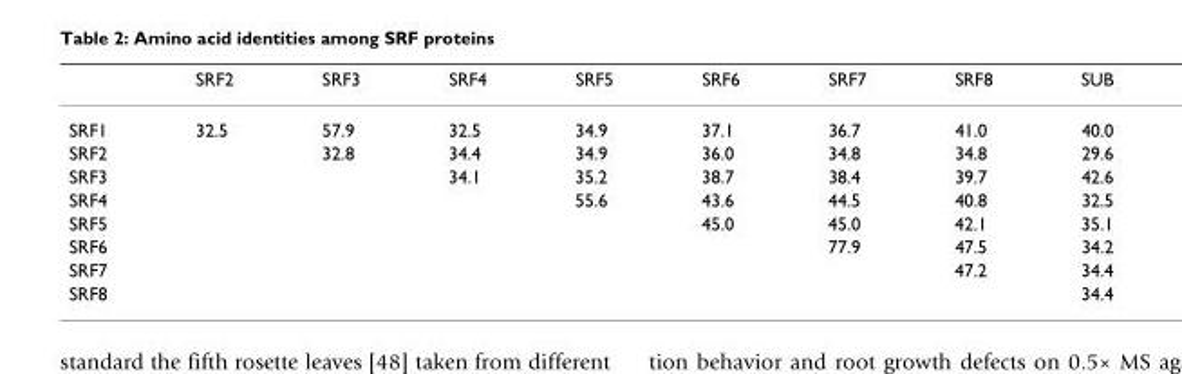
<table><thead><tr><td></td><td>SRF2</td><td>SRF3</td><td>SRF4</td><td>SRF5</td><td>SRF6</td><td>SRF7</td><td>SRF8</td><td>SUB</td></tr></thead><tbody><tr><td>SRF1</td><td>32.5</td><td>57.9</td><td>32.5</td><td>34.9</td><td>37.1</td><td>36.7</td><td>41.0</td><td>40.0</td></tr><tr><td>SRF2</td><td></td><td>32.8</td><td>34.4</td><td>34.9</td><td>36.0</td><td>34.8</td><td>34.8</td><td>29.6</td></tr><tr><td>SRF3</td><td></td><td></td><td>34.1</td><td>35.2</td><td>38.7</td><td>38.4</td><td>39.7</td><td>42.6</td></tr><tr><td>SRF4</td><td></td><td></td><td></td><td>55.6</td><td>43.6</td><td>44.5</td><td>40.8</td><td>32.5</td></tr><tr><td>SRF5</td><td></td><td></td><td></td><td></td><td>45.0</td><td>45.0</td><td>42.1</td><td>35.1</td></tr><tr><td>SRF6</td><td></td><td></td><td></td><td></td><td></td><td>77.9</td><td>47.5</td><td>34.2</td></tr><tr><td>SRF7</td><td></td><td></td><td></td><td></td><td></td><td></td><td>47.2</td><td>34.4</td></tr><tr><td>SRF8</td><td></td><td></td><td></td><td></td><td></td><td></td><td></td><td>34.4</td></tr></tbody></table>